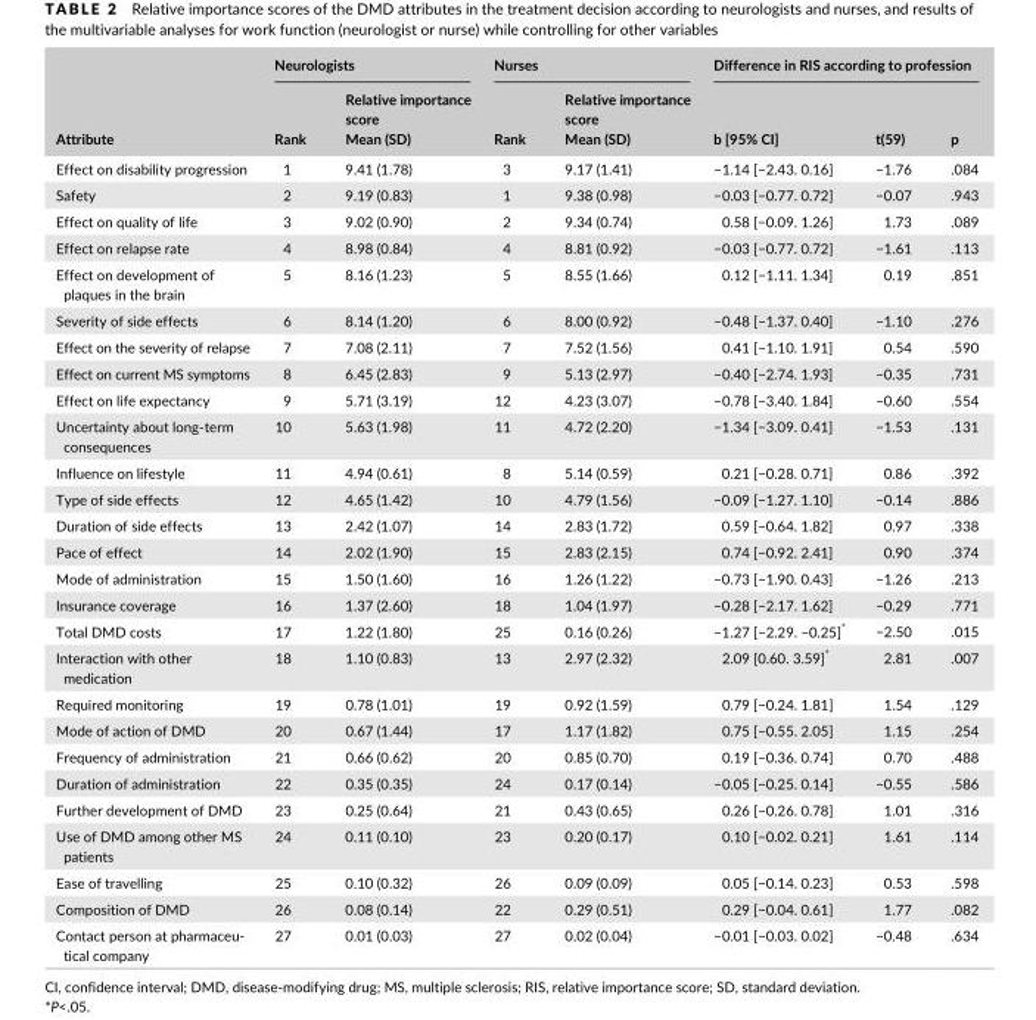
<table><thead><tr><td rowspan="2">Attribute</td><td colspan="2">Neurologists</td><td colspan="2">Nurses</td><td colspan="3">Difference in RIS according to profession</td></tr><tr><td>Rank</td><td>Relative importance score Mean (SD)</td><td>Rank</td><td>Relative importance score Mean (SD)</td><td>b [95% CI]</td><td>t(59)</td><td>p</td></tr></thead><tbody><tr><td>Effect on disability progression</td><td>1</td><td>9.41 (1.78)</td><td>3</td><td>9.17 (1.41)</td><td>−1.14 [−2.43. 0.16]</td><td>−1.76</td><td>.084</td></tr><tr><td>Safety</td><td>2</td><td>9.19 (0.83)</td><td>1</td><td>9.38 (0.98)</td><td>−0.03 [−0.77. 0.72]</td><td>−0.07</td><td>.943</td></tr><tr><td>Effect on quality of life</td><td>3</td><td>9.02 (0.90)</td><td>2</td><td>9.34 (0.74)</td><td>0.58 [−0.09. 1.26]</td><td>1.73</td><td>.089</td></tr><tr><td>Effect on relapse rate</td><td>4</td><td>8.98 (0.84)</td><td>4</td><td>8.81 (0.92)</td><td>−0.03 [−0.77. 0.72]</td><td>−1.61</td><td>.113</td></tr><tr><td>Effect on development of plaques in the brain</td><td>5</td><td>8.16 (1.23)</td><td>5</td><td>8.55 (1.66)</td><td>0.12 [−1.11. 1.34]</td><td>0.19</td><td>.851</td></tr><tr><td>Severity of side effects</td><td>6</td><td>8.14 (1.20)</td><td>6</td><td>8.00 (0.92)</td><td>−0.48 [−1.37. 0.40]</td><td>−1.10</td><td>.276</td></tr><tr><td>Effect on the severity of relapse</td><td>7</td><td>7.08 (2.11)</td><td>7</td><td>7.52 (1.56)</td><td>0.41 [−1.10. 1.91]</td><td>0.54</td><td>.590</td></tr><tr><td>Effect on current MS symptoms</td><td>8</td><td>6.45 (2.83)</td><td>9</td><td>5.13 (2.97)</td><td>−0.40 [−2.74. 1.93]</td><td>−0.35</td><td>.731</td></tr><tr><td>Effect on life expectancy</td><td>9</td><td>5.71 (3.19)</td><td>12</td><td>4.23 (3.07)</td><td>−0.78 [−3.40. 1.84]</td><td>−0.60</td><td>.554</td></tr><tr><td>Uncertainty about long- term consequences</td><td>10</td><td>5.63 (1.98)</td><td>11</td><td>4.72 (2.20)</td><td>−1.34 [−3.09. 0.41]</td><td>−1.53</td><td>.131</td></tr><tr><td>Influence on lifestyle</td><td>11</td><td>4.94 (0.61)</td><td>8</td><td>5.14 (0.59)</td><td>0.21 [−0.28. 0.71]</td><td>0.86</td><td>.392</td></tr><tr><td>Type of side effects</td><td>12</td><td>4.65 (1.42)</td><td>10</td><td>4.79 (1.56)</td><td>−0.09 [−1.27. 1.10]</td><td>−0.14</td><td>.886</td></tr><tr><td>Duration of side effects</td><td>13</td><td>2.42 (1.07)</td><td>14</td><td>2.83 (1.72)</td><td>0.59 [−0.64. 1.82]</td><td>0.97</td><td>.338</td></tr><tr><td>Pace of effect</td><td>14</td><td>2.02 (1.90)</td><td>15</td><td>2.83 (2.15)</td><td>0.74 [−0.92. 2.41]</td><td>0.90</td><td>.374</td></tr><tr><td>Mode of administration</td><td>15</td><td>1.50 (1.60)</td><td>16</td><td>1.26 (1.22)</td><td>−0.73 [−1.90. 0.43]</td><td>−1.26</td><td>.213</td></tr><tr><td>Insurance coverage</td><td>16</td><td>1.37 (2.60)</td><td>18</td><td>1.04 (1.97)</td><td>−0.28 [−2.17. 1.62]</td><td>−0.29</td><td>.771</td></tr><tr><td>Total DMD costs</td><td>17</td><td>1.22 (1.80)</td><td>25</td><td>0.16 (0.26)</td><td>−1.27 [−2.29. −0.25]*</td><td>−2.50</td><td>.015</td></tr><tr><td>Interaction with other medication</td><td>18</td><td>1.10 (0.83)</td><td>13</td><td>2.97 (2.32)</td><td>2.09 [0.60. 3.59]*</td><td>2.81</td><td>.007</td></tr><tr><td>Required monitoring</td><td>19</td><td>0.78 (1.01)</td><td>19</td><td>0.92 (1.59)</td><td>0.79 [−0.24. 1.81]</td><td>1.54</td><td>.129</td></tr><tr><td>Mode of action of DMD</td><td>20</td><td>0.67 (1.44)</td><td>17</td><td>1.17 (1.82)</td><td>0.75 [−0.55. 2.05]</td><td>1.15</td><td>.254</td></tr><tr><td>Frequency of administration</td><td>21</td><td>0.66 (0.62)</td><td>20</td><td>0.85 (0.70)</td><td>0.19 [−0.36. 0.74]</td><td>0.70</td><td>.488</td></tr><tr><td>Duration of administration</td><td>22</td><td>0.35 (0.35)</td><td>24</td><td>0.17 (0.14)</td><td>−0.05 [−0.25. 0.14]</td><td>−0.55</td><td>.586</td></tr><tr><td>Further development of DMD</td><td>23</td><td>0.25 (0.64)</td><td>21</td><td>0.43 (0.65)</td><td>0.26 [−0.26. 0.78]</td><td>1.01</td><td>.316</td></tr><tr><td>Use of DMD among other MS patients</td><td>24</td><td>0.11 (0.10)</td><td>23</td><td>0.20 (0.17)</td><td>0.10 [−0.02. 0.21]</td><td>1.61</td><td>.114</td></tr><tr><td>Ease of travelling</td><td>25</td><td>0.10 (0.32)</td><td>26</td><td>0.09 (0.09)</td><td>0.05 [−0.14. 0.23]</td><td>0.53</td><td>.598</td></tr><tr><td>Composition of DMD</td><td>26</td><td>0.08 (0.14)</td><td>22</td><td>0.29 (0.51)</td><td>0.29 [−0.04. 0.61]</td><td>1.77</td><td>.082</td></tr><tr><td>Contact person at pharmaceu- tical company</td><td>27</td><td>0.01 (0.03)</td><td>27</td><td>0.02 (0.04)</td><td>−0.01 [−0.03. 0.02]</td><td>−0.48</td><td>.634</td></tr></tbody></table>